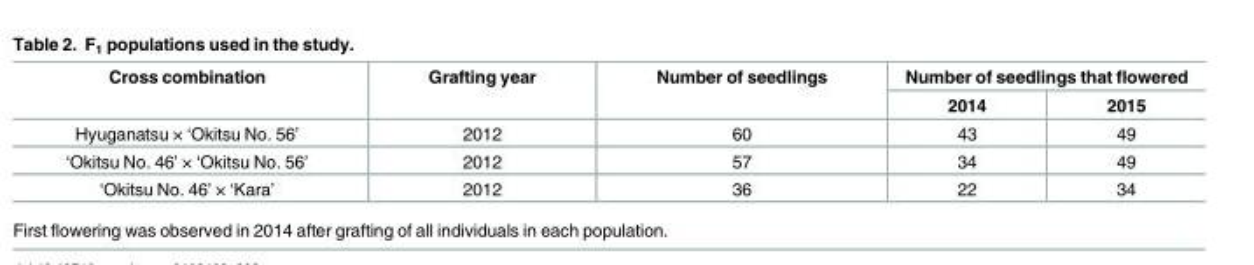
<table><thead><tr><td rowspan="2">Cross combination</td><td rowspan="2">Grafting year</td><td rowspan="2">Number of seedlings</td><td colspan="2">Number of seedlings that flowered</td></tr><tr><td>2014</td><td>2015</td></tr></thead><tbody><tr><td>Hyuganatsu × ‘Okitsu No. 56’</td><td>2012</td><td>60</td><td>43</td><td>49</td></tr><tr><td>‘Okitsu No. 46’ × ‘Okitsu No. 56’</td><td>2012</td><td>57</td><td>34</td><td>49</td></tr><tr><td>‘Okitsu No. 46’ × ‘Kara’</td><td>2012</td><td>36</td><td>22</td><td>34</td></tr></tbody></table>